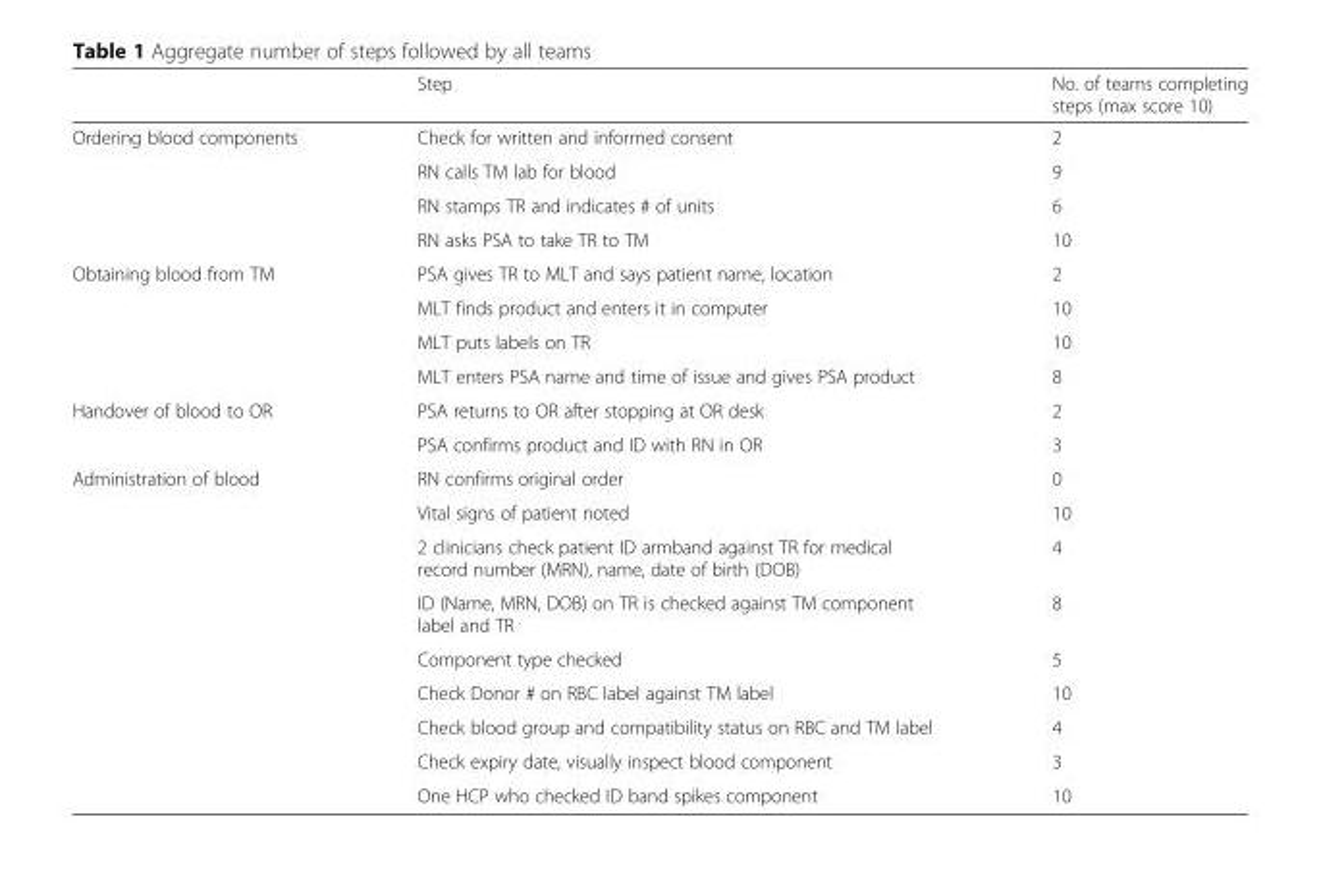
<table><thead><tr><td></td><td>Step</td><td>No. of teams completing steps (max score 10)</td></tr></thead><tbody><tr><td rowspan="4">Ordering blood components</td><td>Check for written and informed consent</td><td>2</td></tr><tr><td>RN calls TM lab for blood</td><td>9</td></tr><tr><td>RN stamps TR and indicates # of units</td><td>6</td></tr><tr><td>RN asks PSA to take TR to TM</td><td>10</td></tr><tr><td rowspan="4">Obtaining blood from TM</td><td>PSA gives TR to MLT and says patient name, location</td><td>2</td></tr><tr><td>MLT finds product and enters it in computer</td><td>10</td></tr><tr><td>MLT puts labels on TR</td><td>10</td></tr><tr><td>MLT enters PSA name and time of issue and gives PSA product</td><td>8</td></tr><tr><td rowspan="2">Handover of blood to OR</td><td>PSA returns to OR after stopping at OR desk</td><td>2</td></tr><tr><td>PSA confirms product and ID with RN in OR</td><td>3</td></tr><tr><td rowspan="9">Administration of blood</td><td>RN confirms original order</td><td>0</td></tr><tr><td>Vital signs of patient noted</td><td>10</td></tr><tr><td>2 clinicians check patient ID armband against TR for medical record number (MRN), name, date of birth (DOB)</td><td>4</td></tr><tr><td>ID (Name, MRN, DOB) on TR is checked against TM component label and TR</td><td>8</td></tr><tr><td>Component type checked</td><td>5</td></tr><tr><td>Check Donor # on RBC label against TM label</td><td>10</td></tr><tr><td>Check blood group and compatibility status on RBC and TM label</td><td>4</td></tr><tr><td>Check expiry date, visually inspect blood component</td><td>3</td></tr><tr><td>One HCP who checked ID band spikes component</td><td>10</td></tr></tbody></table>